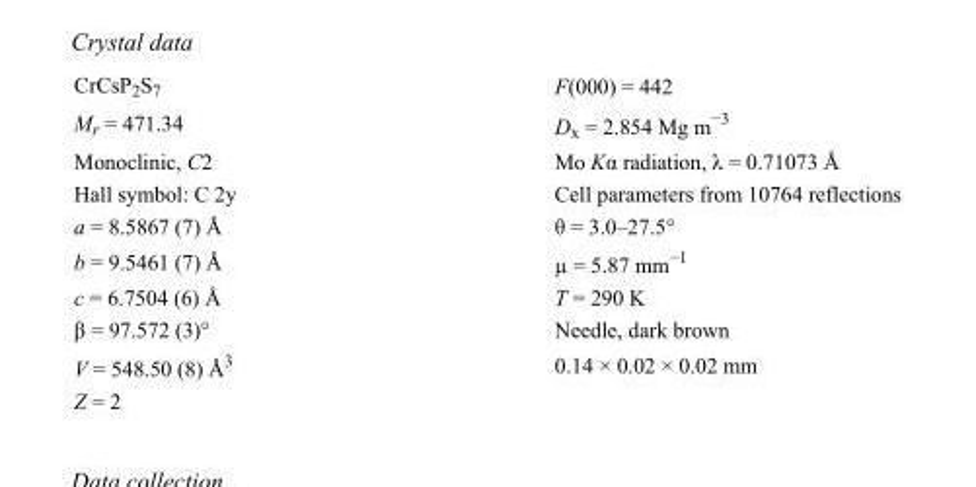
<table><tbody><tr><td>CrCsP<sub>2</sub>S<sub>7</sub></td><td>F(000) = 442</td></tr><tr><td>M<sub>r</sub> = 471.34</td><td>D<sub>x</sub> = 2.854 Mg m<sup>−3</sup></td></tr><tr><td>Monoclinic, C2</td><td>Mo Kα radiation, λ = 0.71073 Å</td></tr><tr><td>Hall symbol: C 2y</td><td>Cell parameters from 10764 reflections</td></tr><tr><td>a = 8.5867 (7) Å</td><td>θ = 3.0–27.5°</td></tr><tr><td>b = 9.5461 (7) Å</td><td>µ = 5.87 mm<sup>−1</sup></td></tr><tr><td>c = 6.7504 (6) Å</td><td>T = 290 K</td></tr><tr><td>β = 97.572 (3)°</td><td>Needle, dark brown</td></tr><tr><td>V = 548.50 (8) Å<sup>3</sup></td><td>0.14 × 0.02 × 0.02 mm</td></tr><tr><td>Z = 2</td><td></td></tr></tbody></table>